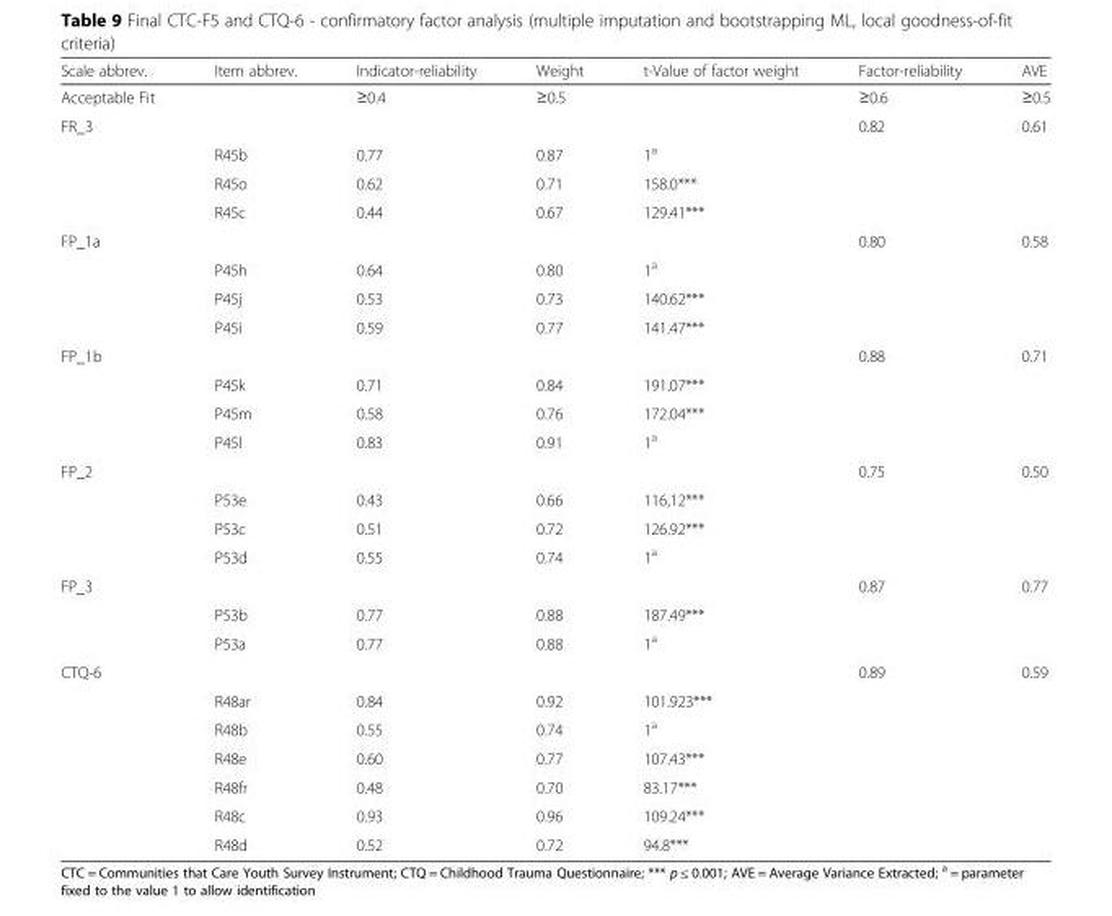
<table><thead><tr><td>Scale abbrev.</td><td>Item abbrev.</td><td>Indicator-reliability</td><td>Weight</td><td>t-Value of factor weight</td><td>Factor-reliability</td><td>AVE</td></tr></thead><tbody><tr><td>Acceptable Fit</td><td></td><td>≥0.4</td><td>≥0.5</td><td></td><td>≥0.6</td><td>≥0.5</td></tr><tr><td rowspan="4">FR_3</td><td></td><td></td><td></td><td></td><td>0.82</td><td>0.61</td></tr><tr><td>R45b</td><td>0.77</td><td>0.87</td><td>1<sup>a</sup></td><td></td><td></td></tr><tr><td>R45o</td><td>0.62</td><td>0.71</td><td>158.0***</td><td></td><td></td></tr><tr><td>R45c</td><td>0.44</td><td>0.67</td><td>129.41***</td><td></td><td></td></tr><tr><td rowspan="4">FP_1a</td><td></td><td></td><td></td><td></td><td>0.80</td><td>0.58</td></tr><tr><td>P45h</td><td>0.64</td><td>0.80</td><td>1<sup>a</sup></td><td></td><td></td></tr><tr><td>P45j</td><td>0.53</td><td>0.73</td><td>140.62***</td><td></td><td></td></tr><tr><td>P45i</td><td>0.59</td><td>0.77</td><td>141.47***</td><td></td><td></td></tr><tr><td rowspan="4">FP_1b</td><td></td><td></td><td></td><td></td><td>0.88</td><td>0.71</td></tr><tr><td>P45k</td><td>0.71</td><td>0.84</td><td>191.07***</td><td></td><td></td></tr><tr><td>P45m</td><td>0.58</td><td>0.76</td><td>172.04***</td><td></td><td></td></tr><tr><td>P45l</td><td>0.83</td><td>0.91</td><td>1<sup>a</sup></td><td></td><td></td></tr><tr><td rowspan="4">FP_2</td><td></td><td></td><td></td><td></td><td>0.75</td><td>0.50</td></tr><tr><td>P53e</td><td>0.43</td><td>0.66</td><td>116,12***</td><td></td><td></td></tr><tr><td>P53c</td><td>0.51</td><td>0.72</td><td>126.92***</td><td></td><td></td></tr><tr><td>P53d</td><td>0.55</td><td>0.74</td><td>1<sup>a</sup></td><td></td><td></td></tr><tr><td rowspan="3">FP_3</td><td></td><td></td><td></td><td></td><td>0.87</td><td>0.77</td></tr><tr><td>P53b</td><td>0.77</td><td>0.88</td><td>187.49***</td><td></td><td></td></tr><tr><td>P53a</td><td>0.77</td><td>0.88</td><td>1<sup>a</sup></td><td></td><td></td></tr><tr><td rowspan="7">CTQ-6</td><td></td><td></td><td></td><td></td><td>0.89</td><td>0.59</td></tr><tr><td>R48ar</td><td>0.84</td><td>0.92</td><td>101.923***</td><td></td><td></td></tr><tr><td>R48b</td><td>0.55</td><td>0.74</td><td>1<sup>a</sup></td><td></td><td></td></tr><tr><td>R48e</td><td>0.60</td><td>0.77</td><td>107.43***</td><td></td><td></td></tr><tr><td>R48fr</td><td>0.48</td><td>0.70</td><td>83.17***</td><td></td><td></td></tr><tr><td>R48c</td><td>0.93</td><td>0.96</td><td>109.24***</td><td></td><td></td></tr><tr><td>R48d</td><td>0.52</td><td>0.72</td><td>94.8***</td><td></td><td></td></tr></tbody></table>